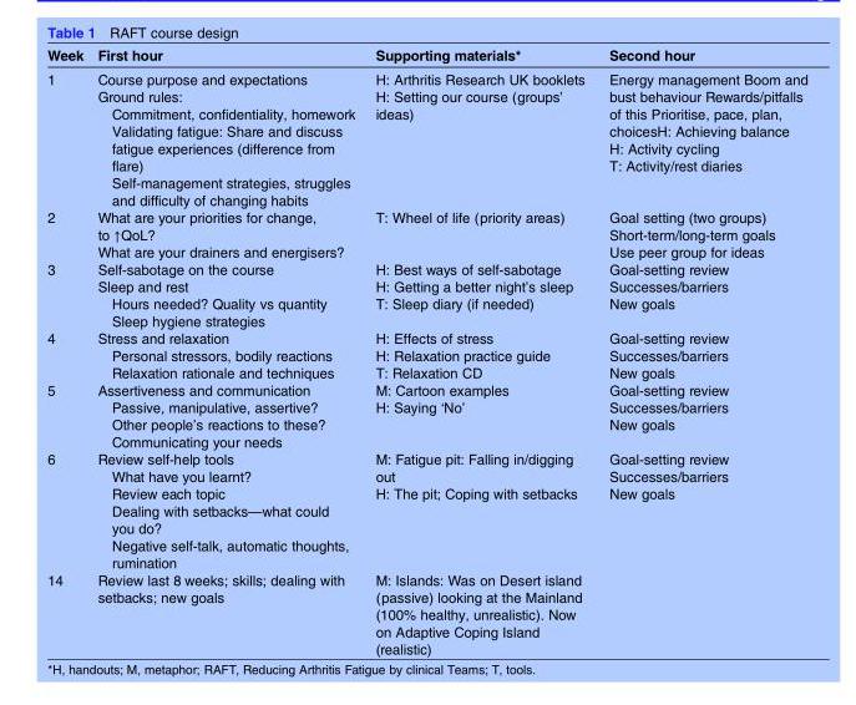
<table><thead><tr><td>Week</td><td>First hour</td><td>Supporting materials*</td><td>Second hour</td></tr></thead><tbody><tr><td>1</td><td>Course purpose and expectations Ground rules: Commitment, confidentiality, homework Validating fatigue: Share and discuss fatigue experiences (difference from flare) Self-management strategies, struggles and difficulty of changing habits</td><td>H: Arthritis Research UK booklets H: Setting our course (groups’ ideas)</td><td>Energy management Boom and bust behaviour Rewards/pitfalls of this Prioritise, pace, plan, choicesH: Achieving balance H: Activity cycling T: Activity/rest diaries</td></tr><tr><td>2</td><td>What are your priorities for change, to ↑QoL? What are your drainers and energisers?</td><td>T: Wheel of life (priority areas)</td><td>Goal setting (two groups) Short-term/long-term goals Use peer group for ideas</td></tr><tr><td>3</td><td>Self-sabotage on the course Sleep and rest Hours needed? Quality vs quantity Sleep hygiene strategies</td><td>H: Best ways of self-sabotage H: Getting a better night’s sleep T: Sleep diary (if needed)</td><td>Goal-setting review Successes/barriers New goals</td></tr><tr><td>4</td><td>Stress and relaxation Personal stressors, bodily reactions Relaxation rationale and techniques</td><td>H: Effects of stress H: Relaxation practice guide T: Relaxation CD</td><td>Goal-setting review Successes/barriers New goals</td></tr><tr><td>5</td><td>Assertiveness and communication Passive, manipulative, assertive? Other people’s reactions to these? Communicating your needs</td><td>M: Cartoon examples H: Saying ‘No’</td><td>Goal-setting review Successes/barriers New goals</td></tr><tr><td>6</td><td>Review self-help tools What have you learnt? Review each topic Dealing with setbacks—what could you do? Negative self-talk, automatic thoughts, rumination</td><td>M: Fatigue pit: Falling in/digging out H: The pit; Coping with setbacks</td><td>Goal-setting review Successes/barriers New goals</td></tr><tr><td>14</td><td>Review last 8 weeks; skills; dealing with setbacks; new goals</td><td>M: Islands: Was on Desert island (passive) looking at the Mainland (100% healthy, unrealistic). Now on Adaptive Coping Island (realistic)</td><td></td></tr></tbody></table>